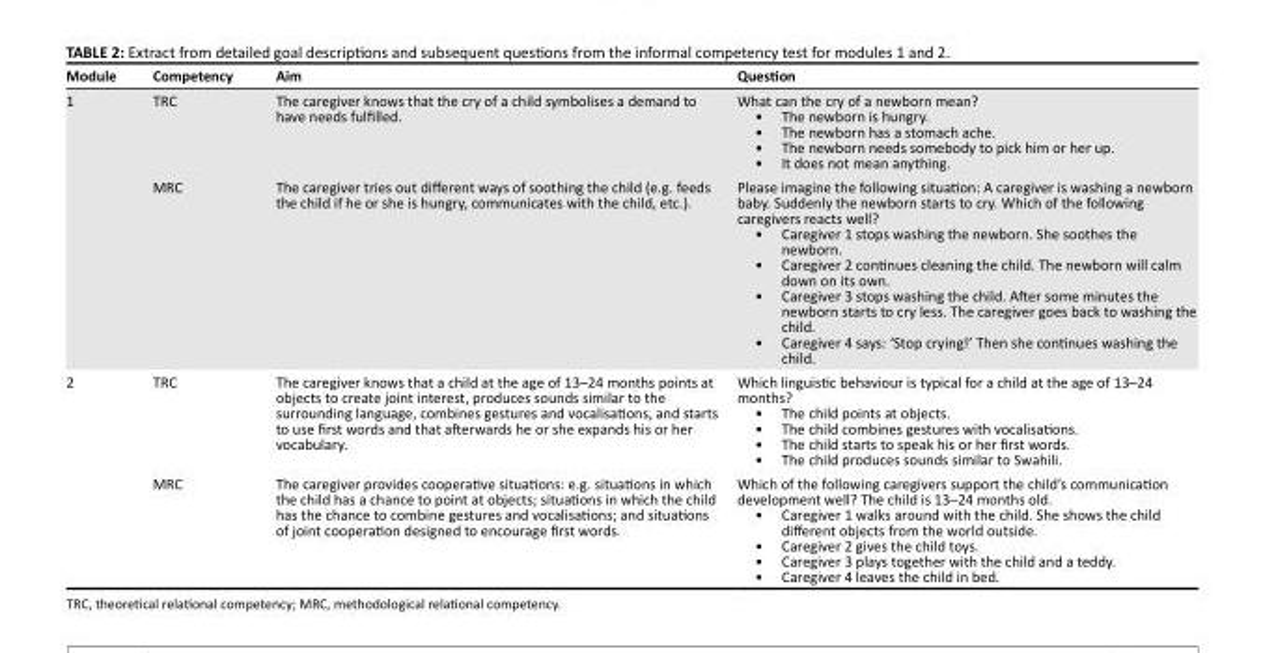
<table><thead><tr><td>Module</td><td>Competency</td><td>Aim</td><td>Question</td></tr></thead><tbody><tr><td rowspan="2">1</td><td>TRC</td><td>The caregiver knows that the cry of a child symbolises a demand to have needs fulfilled.</td><td>What can the cry of a newborn mean? • The newborn is hungry. • The newborn has a stomach ache. • The newborn needs somebody to pick him or her up. • It does not mean anything.</td></tr><tr><td>MRC</td><td>The caregiver tries out different ways of soothing the child (e.g. feeds the child if he or she is hungry, communicates with the child, etc.).</td><td>Please imagine the following situation: A caregiver is washing a newborn baby. Suddenly the newborn starts to cry. Which of the following caregivers reacts well? • Caregiver 1 stops washing the newborn. She soothes the newborn. • Caregiver 2 continues cleaning the child. The newborn will calm down on its own. • Caregiver 3 stops washing the child. After some minutes the newborn starts to cry less. The caregiver goes back to washing the child. • Caregiver 4 says: ‘Stop crying!’ Then she continues washing the child.</td></tr><tr><td rowspan="2">2</td><td>TRC</td><td>The caregiver knows that a child at the age of 13–24 months points at objects to create joint interest, produces sounds similar to the surrounding language, combines gestures and vocalisations, and starts to use first words and that afterwards he or she expands his or her vocabulary.</td><td>Which linguistic behaviour is typical for a child at the age of 13–24 months? • The child points at objects. • The child combines gestures with vocalisations. • The child starts to speak his or her first words. • The child produces sounds similar to Swahili.</td></tr><tr><td>MRC</td><td>The caregiver provides cooperative situations: e.g. situations in which the child has a chance to point at objects; situations in which the child has the chance to combine gestures and vocalisations; and situations of joint cooperation designed to encourage first words.</td><td>Which of the following caregivers support the child’s communication development well? The child is 13–24 months old. • Caregiver 1 walks around with the child. She shows the child different objects from the world outside. • Caregiver 2 gives the child toys. • Caregiver 3 plays together with the child and a teddy. • Caregiver 4 leaves the child in bed.</td></tr></tbody></table>